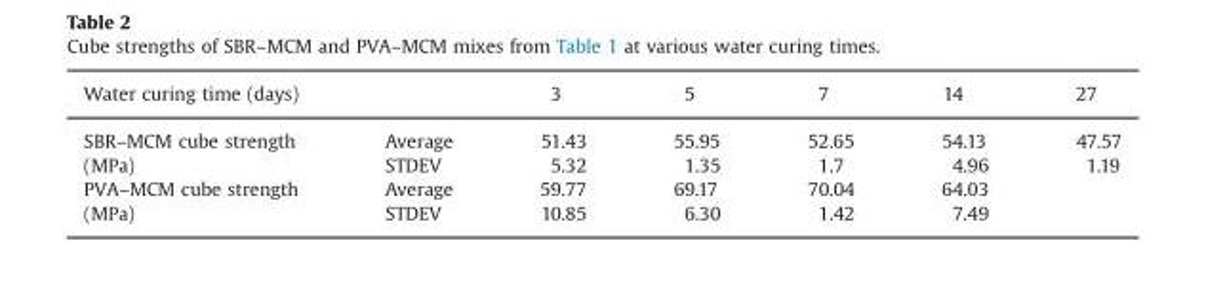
<table><thead><tr><td colspan="2">Water curing time (days)</td><td rowspan="2">3 51.43</td><td rowspan="2">5 55.95</td><td rowspan="2">7 52.65</td><td rowspan="2">14 54.13</td><td rowspan="2">27 47.57</td></tr><tr><td>SBR–MCM cube strength</td><td>Average</td></tr></thead><tbody><tr><td>(MPa)</td><td>STDEV</td><td>5.32</td><td>1.35</td><td>1.7</td><td>4.96</td><td>1.19</td></tr><tr><td>PVA–MCM cube strength</td><td>Average</td><td>59.77</td><td>69.17</td><td>70.04</td><td>64.03</td><td></td></tr><tr><td>(MPa)</td><td>STDEV</td><td>10.85</td><td>6.30</td><td>1.42</td><td>7.49</td><td></td></tr></tbody></table>